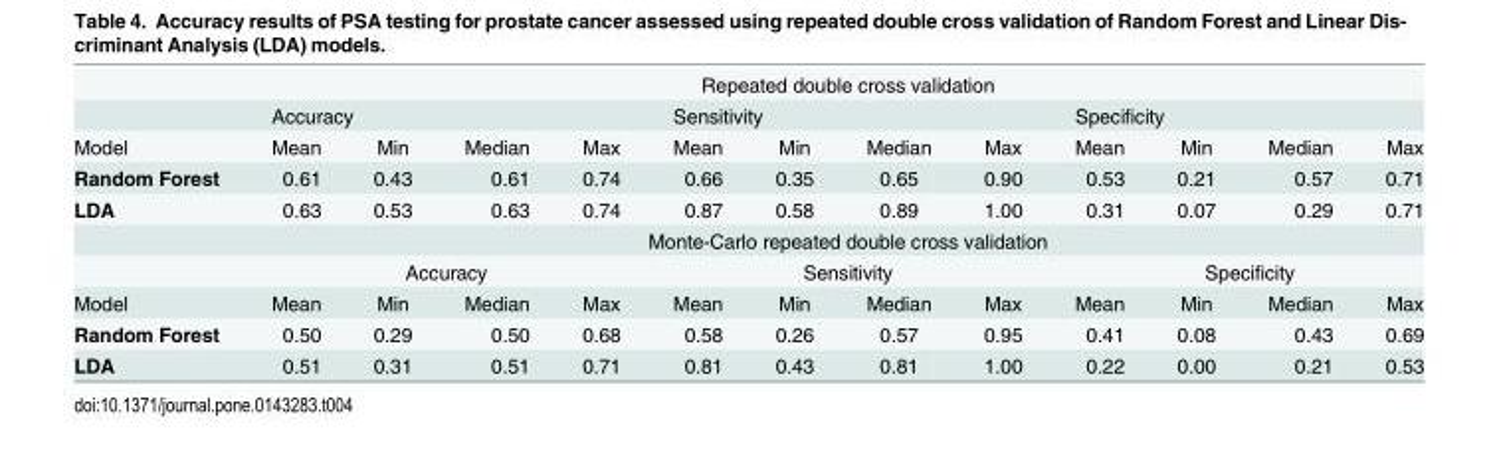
<table><thead><tr><td rowspan="3">Model</td><td colspan="12">Repeated double cross validation</td></tr><tr><td colspan="4">Accuracy</td><td colspan="4">Sensitivity</td><td colspan="4">Specificity</td></tr><tr><td>Mean</td><td>Min</td><td>Median</td><td>Max</td><td>Mean</td><td>Min</td><td>Median</td><td>Max</td><td>Mean</td><td>Min</td><td>Median</td><td>Max</td></tr></thead><tbody><tr><td>Random Forest</td><td>0.61</td><td>0.43</td><td>0.61</td><td>0.74</td><td>0.66</td><td>0.35</td><td>0.65</td><td>0.90</td><td>0.53</td><td>0.21</td><td>0.57</td><td>0.71</td></tr><tr><td rowspan="3">LDA</td><td>0.63</td><td>0.53</td><td>0.63</td><td>0.74</td><td>0.87</td><td>0.58</td><td>0.89</td><td>1.00</td><td>0.31</td><td>0.07</td><td>0.29</td><td>0.71</td></tr><tr><td colspan="12">Monte-Carlo repeated double cross validation</td></tr><tr><td colspan="4">Accuracy</td><td colspan="4">Sensitivity</td><td colspan="4">Specificity</td></tr><tr><td>Model</td><td>Mean</td><td>Min</td><td>Median</td><td>Max</td><td>Mean</td><td>Min</td><td>Median</td><td>Max</td><td>Mean</td><td>Min</td><td>Median</td><td>Max</td></tr><tr><td>Random Forest</td><td>0.50</td><td>0.29</td><td>0.50</td><td>0.68</td><td>0.58</td><td>0.26</td><td>0.57</td><td>0.95</td><td>0.41</td><td>0.08</td><td>0.43</td><td>0.69</td></tr><tr><td>LDA</td><td>0.51</td><td>0.31</td><td>0.51</td><td>0.71</td><td>0.81</td><td>0.43</td><td>0.81</td><td>1.00</td><td>0.22</td><td>0.00</td><td>0.21</td><td>0.53</td></tr></tbody></table>